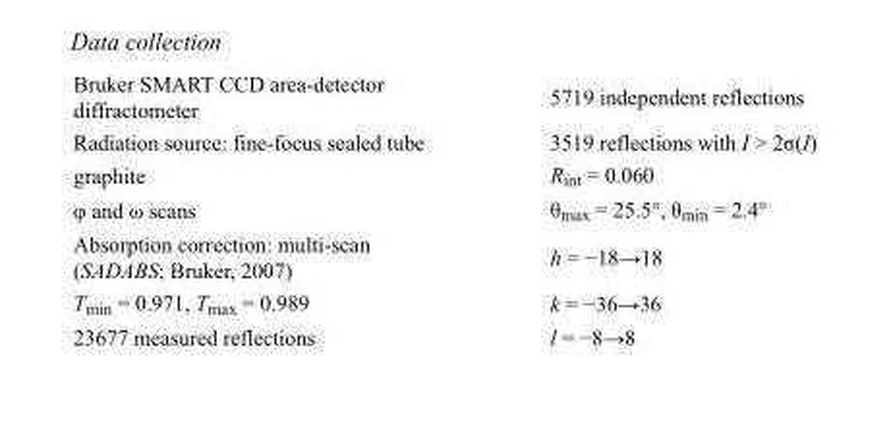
<table><tbody><tr><td>Bruker SMART CCD area-detector diffractometer</td><td>5719 independent reflections</td></tr><tr><td>Radiation source: fine-focus sealed tube</td><td>3519 reflections with I &gt; 2σ(I)</td></tr><tr><td>graphite</td><td>R<sub>int</sub> = 0.060</td></tr><tr><td>φ and ω scans</td><td>θ<sub>max</sub> = 25.5°, θ<sub>min</sub> = 2.4°</td></tr><tr><td>Absorption correction: multi-scan (SADABS; Bruker, 2007)</td><td>h = −18→18</td></tr><tr><td>T<sub>min</sub> = 0.971, T<sub>max</sub> = 0.989</td><td>k = −36→36</td></tr><tr><td>23677 measured reflections</td><td>l = −8→8</td></tr></tbody></table>